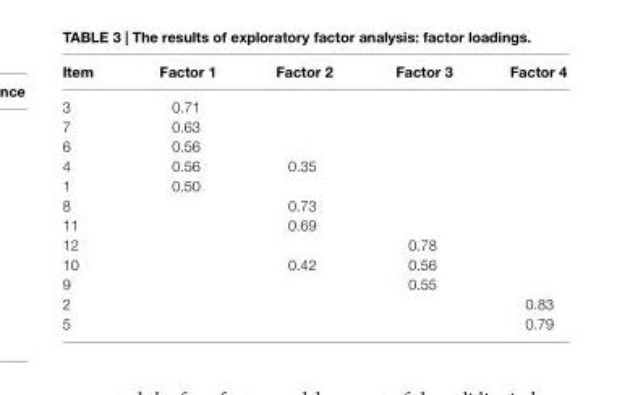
<table><thead><tr><td>item</td><td>Factor 1</td><td>Factor 2</td><td>Factor 3</td><td>Factor 4</td></tr></thead><tbody><tr><td>3</td><td>0.71</td><td></td><td></td><td></td></tr><tr><td>7</td><td>0.63</td><td></td><td></td><td></td></tr><tr><td>6</td><td>0.56</td><td></td><td></td><td></td></tr><tr><td>4</td><td>0.56</td><td>0.35</td><td></td><td></td></tr><tr><td>1</td><td>0.50</td><td></td><td></td><td></td></tr><tr><td>8</td><td></td><td>0.73</td><td></td><td></td></tr><tr><td>11</td><td></td><td>0.69</td><td></td><td></td></tr><tr><td>12</td><td></td><td></td><td>0.78</td><td></td></tr><tr><td>10</td><td></td><td>0.42</td><td>0.56</td><td></td></tr><tr><td>9</td><td></td><td></td><td>0.55</td><td></td></tr><tr><td>2</td><td></td><td></td><td></td><td>0.83</td></tr><tr><td>5</td><td></td><td></td><td></td><td>0.79</td></tr></tbody></table>